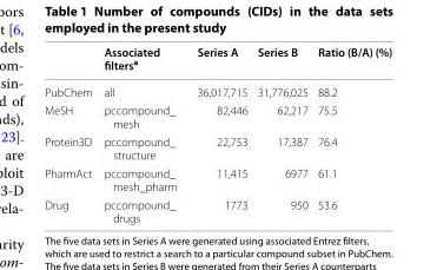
<table><thead><tr><td></td><td>Associated filters<sup>a</sup></td><td>Series A</td><td>Series B</td><td>Ratio (B/A) (%)</td></tr></thead><tbody><tr><td>PubChem</td><td>all</td><td>36,017,715</td><td>31,776,025</td><td>88.2</td></tr><tr><td>MeSH</td><td>pccompound_ mesh</td><td>82,446</td><td>62,217</td><td>75.5</td></tr><tr><td>Protein3D</td><td>pccompound_ structure</td><td>22,753</td><td>17,387</td><td>76.4</td></tr><tr><td>PharmAct</td><td>pccompound_ mesh_pharm</td><td>11,415</td><td>6977</td><td>61.1</td></tr><tr><td>Drug</td><td>pccompound_ drugs</td><td>1773</td><td>950</td><td>53.6</td></tr></tbody></table>